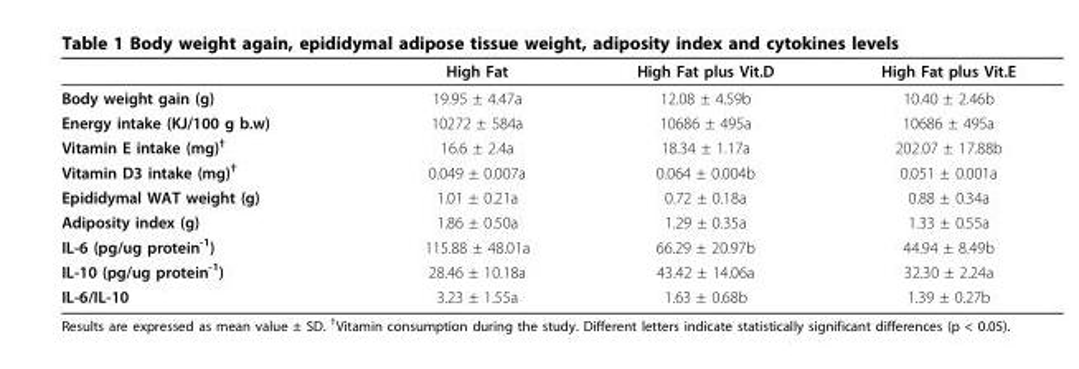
<table><thead><tr><td></td><td>High Fat</td><td>High Fat plus Vit.D</td><td>High Fat plus Vit.E</td></tr></thead><tbody><tr><td>Body weight gain (g)</td><td>19.95 ± 4.47a</td><td>12.08 ± 4.59b</td><td>10.40 ± 2.46b</td></tr><tr><td>Energy intake (KJ/100 g b.w)</td><td>10272 ± 584a</td><td>10686 ± 495a</td><td>10686 ± 495a</td></tr><tr><td>Vitamin E intake (mg)<sup>†</sup></td><td>16.6 ± 2.4a</td><td>18.34 ± 1.17a</td><td>202.07 ± 17.88b</td></tr><tr><td>Vitamin D3 intake (mg)<sup>†</sup></td><td>0.049 ± 0.007a</td><td>0.064 ± 0.004b</td><td>0.051 ± 0.001a</td></tr><tr><td>Epididymal WAT weight (g)</td><td>1.01 ± 0.21a</td><td>0.72 ± 0.18a</td><td>0.88 ± 0.34a</td></tr><tr><td>Adiposity index (g)</td><td>1.86 ± 0.50a</td><td>1.29 ± 0.35a</td><td>1.33 ± 0.55a</td></tr><tr><td>IL-6 (pg/ug protein<sup>-1</sup>)</td><td>115.88 ± 48.01a</td><td>66.29 ± 20.97b</td><td>44.94 ± 8.49b</td></tr><tr><td>IL-10 (pg/ug protein<sup>-1</sup>)</td><td>28.46 ± 10.18a</td><td>43.42 ± 14.06a</td><td>32.30 ± 2.24a</td></tr><tr><td>IL-6/IL-10</td><td>3.23 ± 1.55a</td><td>1.63 ± 0.68b</td><td>1.39 ± 0.27b</td></tr></tbody></table>